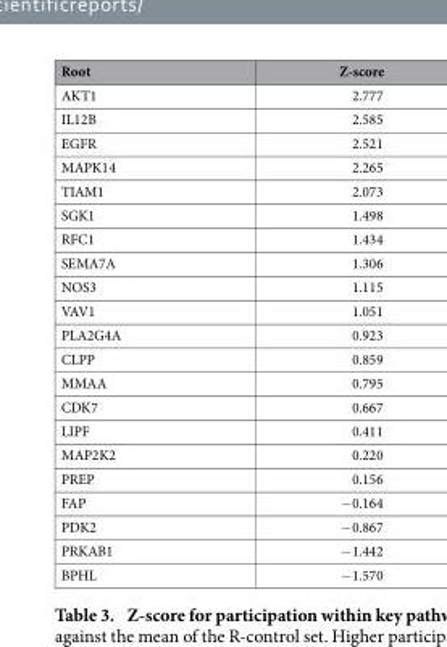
<table><thead><tr><td>Root</td><td>Z-score</td></tr></thead><tbody><tr><td>AKT1</td><td>2.777</td></tr><tr><td>IL12B</td><td>2.585</td></tr><tr><td>EGFR</td><td>2.521</td></tr><tr><td>MAPK14</td><td>2.265</td></tr><tr><td>TIAM1</td><td>2.073</td></tr><tr><td>SGK1</td><td>1.498</td></tr><tr><td>RFC1</td><td>1.434</td></tr><tr><td>SEMA7A</td><td>1.306</td></tr><tr><td>NOS3</td><td>1.115</td></tr><tr><td>VAV1</td><td>1.051</td></tr><tr><td>PLA2G4A</td><td>0.923</td></tr><tr><td>CLPP</td><td>0.859</td></tr><tr><td>MMAA</td><td>0.795</td></tr><tr><td>CDK7</td><td>0.667</td></tr><tr><td>LIPF</td><td>0.411</td></tr><tr><td>MAP2K2</td><td>0.220</td></tr><tr><td>PREP</td><td>0.156</td></tr><tr><td>FAP</td><td>− 0.164</td></tr><tr><td>PDK2</td><td>− 0.867</td></tr><tr><td>PRKAB1</td><td>− 1.442</td></tr><tr><td>BPHL</td><td>− 1.570</td></tr></tbody></table>